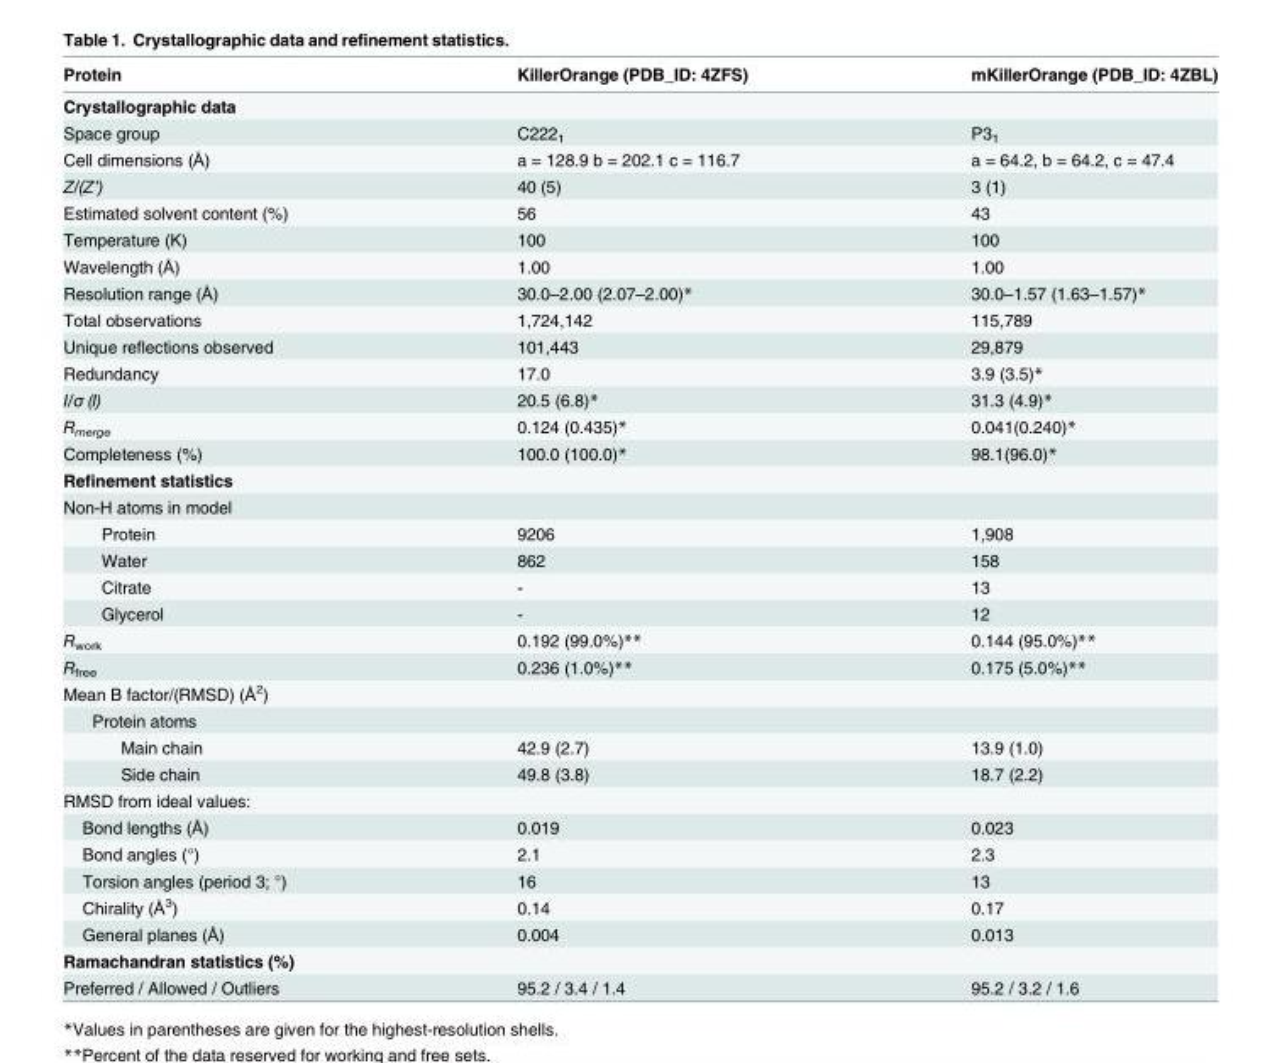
<table><thead><tr><td>Protein</td><td>KillerOrange (PDB_ID: 4ZFS)</td><td>mKillerOrange (PDB_ID: 4ZBL)</td></tr></thead><tbody><tr><td colspan="3">Crystallographic data</td></tr><tr><td>Space group</td><td>C222<sub>1</sub></td><td>P3<sub>1</sub></td></tr><tr><td>Cell dimensions (Å)</td><td>a = 128.9 b = 202.1 c = 116.7</td><td>a = 64.2, b = 64.2, c = 47.4</td></tr><tr><td>Z/(Z’)</td><td>40 (5)</td><td>3 (1)</td></tr><tr><td>Estimated solvent content (%)</td><td>56</td><td>43</td></tr><tr><td>Temperature (K)</td><td>100</td><td>100</td></tr><tr><td>Wavelength (Å)</td><td>1.00</td><td>1.00</td></tr><tr><td>Resolution range (Å)</td><td>30.0–2.00 (2.07–2.00)*</td><td>30.0–1.57 (1.63–1.57)*</td></tr><tr><td>Total observations</td><td>1,724,142</td><td>115,789</td></tr><tr><td>Unique reflections observed</td><td>101,443</td><td>29,879</td></tr><tr><td>Redundancy</td><td>17.0</td><td>3.9 (3.5)*</td></tr><tr><td>I/σ (I)</td><td>20.5 (6.8)*</td><td>31.3 (4.9)*</td></tr><tr><td>R<sub>merge</sub></td><td>0.124 (0.435)*</td><td>0.041(0.240)*</td></tr><tr><td>Completeness (%)</td><td>100.0 (100.0)*</td><td>98.1(96.0)*</td></tr><tr><td colspan="3">Refinement statistics</td></tr><tr><td colspan="3">Non-H atoms in model</td></tr><tr><td>Protein</td><td>9206</td><td>1,908</td></tr><tr><td>Water</td><td>862</td><td>158</td></tr><tr><td>Citrate</td><td>-</td><td>13</td></tr><tr><td>Glycerol</td><td>-</td><td>12</td></tr><tr><td>R<sub>work</sub></td><td>0.192 (99.0%)**</td><td>0.144 (95.0%)**</td></tr><tr><td>R<sub>free</sub></td><td>0.236 (1.0%)**</td><td>0.175 (5.0%)**</td></tr><tr><td colspan="3">Mean B factor/(RMSD) (Å<sup>2</sup>)</td></tr><tr><td colspan="3">Protein atoms</td></tr><tr><td>Main chain</td><td>42.9 (2.7)</td><td>13.9 (1.0)</td></tr><tr><td>Side chain</td><td>49.8 (3.8)</td><td>18.7 (2.2)</td></tr><tr><td colspan="3">RMSD from ideal values:</td></tr><tr><td>Bond lengths (Å)</td><td>0.019</td><td>0.023</td></tr><tr><td>Bond angles (°)</td><td>2.1</td><td>2.3</td></tr><tr><td>Torsion angles (period 3; °)</td><td>16</td><td>13</td></tr><tr><td>Chirality (Å<sup>3</sup>)</td><td>0.14</td><td>0.17</td></tr><tr><td>General planes (Å)</td><td>0.004</td><td>0.013</td></tr><tr><td colspan="3">Ramachandran statistics (%)</td></tr><tr><td>Preferred / Allowed / Outliers</td><td>95.2 / 3.4 / 1.4</td><td>95.2 / 3.2 / 1.6</td></tr></tbody></table>